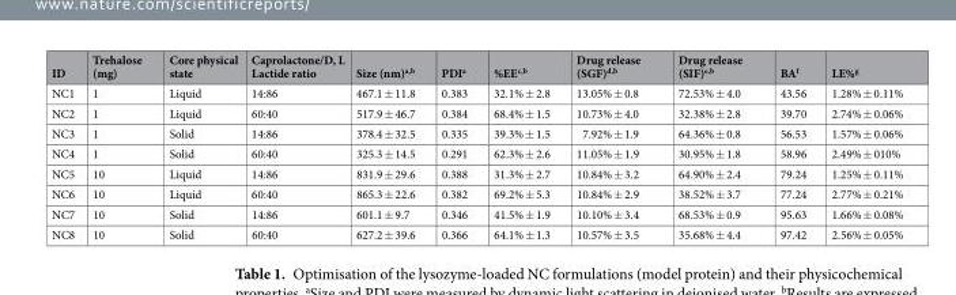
<table><thead><tr><td>ID</td><td>Trehalose (mg)</td><td>Core physical state</td><td>Caprolactone/D, L Lactide ratio</td><td>Size (nm)<sup>a,b</sup></td><td>PDI<sup>a</sup></td><td>%EE<sup>c,b</sup></td><td>Drug release (SGF)<sup>d,b</sup></td><td>Drug release (SIF)<sup>e,b</sup></td><td>BA<sup>f</sup></td><td>LE%<sup>g</sup></td></tr></thead><tbody><tr><td>NC1</td><td>1</td><td>Liquid</td><td>14:86</td><td>467.1 ± 11.8</td><td>0.383</td><td>32.1% ± 2.8</td><td>13.05% ± 0.8</td><td>72.53% ± 4.0</td><td>43.56</td><td>1.28% ± 0.11%</td></tr><tr><td>NC2</td><td>1</td><td>Liquid</td><td>60:40</td><td>517.9 ± 46.7</td><td>0.384</td><td>68.4% ± 1.5</td><td>10.73% ± 4.0</td><td>32.38% ± 2.8</td><td>39.70</td><td>2.74% ± 0.06%</td></tr><tr><td>NC3</td><td>1</td><td>Solid</td><td>14:86</td><td>378.4 ± 32.5</td><td>0.335</td><td>39.3% ± 1.5</td><td>7.92% ± 1.9</td><td>64.36% ± 0.8</td><td>56.53</td><td>1.57% ± 0.06%</td></tr><tr><td>NC4</td><td>1</td><td>Solid</td><td>60:40</td><td>325.3 ± 14.5</td><td>0.291</td><td>62.3% ± 2.6</td><td>11.05% ± 1.9</td><td>30.95% ± 1.8</td><td>58.96</td><td>2.49% ± 010%</td></tr><tr><td>NC5</td><td>10</td><td>Liquid</td><td>14:86</td><td>831.9 ± 29.6</td><td>0.388</td><td>31.3% ± 2.7</td><td>10.84% ± 3.2</td><td>64.90% ± 2.4</td><td>79.24</td><td>1.25% ± 0.11%</td></tr><tr><td>NC6</td><td>10</td><td>Liquid</td><td>60:40</td><td>865.3 ± 22.6</td><td>0.382</td><td>69.2% ± 5.3</td><td>10.84% ± 2.9</td><td>38.52% ± 3.7</td><td>77.24</td><td>2.77% ± 0.21%</td></tr><tr><td>NC7</td><td>10</td><td>Solid</td><td>14:86</td><td>601.1 ± 9.7</td><td>0.346</td><td>41.5% ± 1.9</td><td>10.10% ± 3.4</td><td>68.53% ± 0.9</td><td>95.63</td><td>1.66% ± 0.08%</td></tr><tr><td>NC8</td><td>10</td><td>Solid</td><td>60:40</td><td>627.2 ± 39.6</td><td>0.366</td><td>64.1% ± 1.3</td><td>10.57% ± 3.5</td><td>35.68% ± 4.4</td><td>97.42</td><td>2.56% ± 0.05%</td></tr></tbody></table>